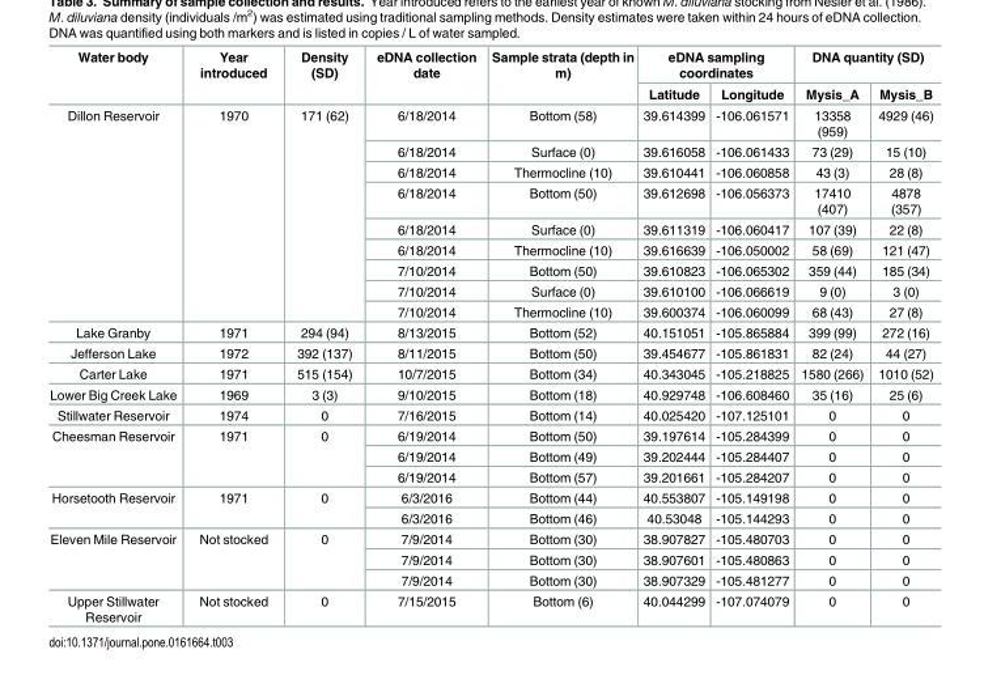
<table><thead><tr><td rowspan="2">Water body</td><td rowspan="2">Year introduced</td><td rowspan="2">Density (SD)</td><td rowspan="2">eDNA collection date</td><td rowspan="2">Sample strata (depth in m)</td><td colspan="2">eDNA sampling coordinates</td><td colspan="2">DNA quantity (SD)</td></tr><tr><td>Latitude</td><td>Longitude</td><td>Mysis_A</td><td>Mysis_B</td></tr></thead><tbody><tr><td rowspan="9">Dillon Reservoir</td><td rowspan="9">1970</td><td rowspan="9">171 (62)</td><td>6/18/2014</td><td>Bottom (58)</td><td>39.614399</td><td>-106.061571</td><td>13358 (959)</td><td>4929 (46)</td></tr><tr><td>6/18/2014</td><td>Surface (0)</td><td>39.616058</td><td>-106.061433</td><td>73 (29)</td><td>15 (10)</td></tr><tr><td>6/18/2014</td><td>Thermocline (10)</td><td>39.610441</td><td>-106.060858</td><td>43 (3)</td><td>28 (8)</td></tr><tr><td>6/18/2014</td><td>Bottom (50)</td><td>39.612698</td><td>-106.056373</td><td>17410 (407)</td><td>4878 (357)</td></tr><tr><td>6/18/2014</td><td>Surface (0)</td><td>39.611319</td><td>-106.060417</td><td>107 (39)</td><td>22 (8)</td></tr><tr><td>6/18/2014</td><td>Thermocline (10)</td><td>39.616639</td><td>-106.050002</td><td>58 (69)</td><td>121 (47)</td></tr><tr><td>7/10/2014</td><td>Bottom (50)</td><td>39.610823</td><td>-106.065302</td><td>359 (44)</td><td>185 (34)</td></tr><tr><td>7/10/2014</td><td>Surface (0)</td><td>39.610100</td><td>-106.066619</td><td>9 (0)</td><td>3 (0)</td></tr><tr><td>7/10/2014</td><td>Thermocline (10)</td><td>39.600374</td><td>-106.060099</td><td>68 (43)</td><td>27 (8)</td></tr><tr><td>Lake Granby</td><td>1971</td><td>294 (94)</td><td>8/13/2015</td><td>Bottom (52)</td><td>40.151051</td><td>-105.865884</td><td>399 (99)</td><td>272 (16)</td></tr><tr><td>Jefferson Lake</td><td>1972</td><td>392 (137)</td><td>8/11/2015</td><td>Bottom (50)</td><td>39.454677</td><td>-105.861831</td><td>82 (24)</td><td>44 (27)</td></tr><tr><td>Carter Lake</td><td>1971</td><td>515 (154)</td><td>10/7/2015</td><td>Bottom (34)</td><td>40.343045</td><td>-105.218825</td><td>1580 (266)</td><td>1010 (52)</td></tr><tr><td>Lower Big Creek Lake</td><td>1969</td><td>3 (3)</td><td>9/10/2015</td><td>Bottom (18)</td><td>40.929748</td><td>-106.608460</td><td>35 (16)</td><td>25 (6)</td></tr><tr><td>Stillwater Reservoir</td><td>1974</td><td>0</td><td>7/16/2015</td><td>Bottom (14)</td><td>40.025420</td><td>-107.125101</td><td>0</td><td>0</td></tr><tr><td rowspan="3">Cheesman Reservoir</td><td rowspan="3">1971</td><td rowspan="3">0</td><td>6/19/2014</td><td>Bottom (50)</td><td>39.197614</td><td>-105.284399</td><td>0</td><td>0</td></tr><tr><td>6/19/2014</td><td>Bottom (49)</td><td>39.202444</td><td>-105.284407</td><td>0</td><td>0</td></tr><tr><td>6/19/2014</td><td>Bottom (57)</td><td>39.201661</td><td>-105.284207</td><td>0</td><td>0</td></tr><tr><td rowspan="2">Horsetooth Reservoir</td><td rowspan="2">1971</td><td rowspan="2">0</td><td>6/3/2016</td><td>Bottom (44)</td><td>40.553807</td><td>-105.149198</td><td>0</td><td>0</td></tr><tr><td>6/3/2016</td><td>Bottom (46)</td><td>40.53048</td><td>-105.144293</td><td>0</td><td>0</td></tr><tr><td rowspan="3">Eleven Mile Reservoir</td><td rowspan="3">Not stocked</td><td rowspan="3">0</td><td>7/9/2014</td><td>Bottom (30)</td><td>38.907827</td><td>-105.480703</td><td>0</td><td>0</td></tr><tr><td>7/9/2014</td><td>Bottom (30)</td><td>38.907601</td><td>-105.480863</td><td>0</td><td>0</td></tr><tr><td>7/9/2014</td><td>Bottom (30)</td><td>38.907329</td><td>-105.481277</td><td>0</td><td>0</td></tr><tr><td>Upper Stillwater Reservoir</td><td>Not stocked</td><td>0</td><td>7/15/2015</td><td>Bottom (6)</td><td>40.044299</td><td>-107.074079</td><td>0</td><td>0</td></tr></tbody></table>